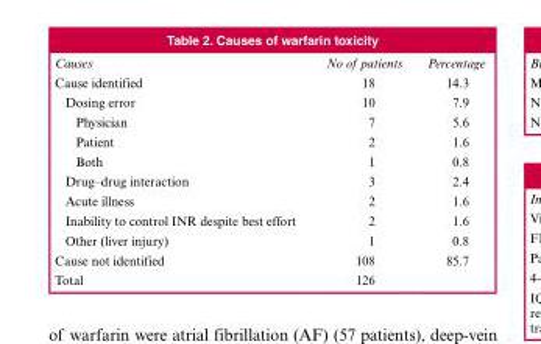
<table><thead><tr><td>Causes</td><td>No of patients</td><td>Percentage</td></tr></thead><tbody><tr><td>Cause identified</td><td>18</td><td>14.3</td></tr><tr><td>Dosing error</td><td>10</td><td>7.9</td></tr><tr><td>Physician</td><td>7</td><td>5.6</td></tr><tr><td>Patient</td><td>2</td><td>1.6</td></tr><tr><td>Both</td><td>1</td><td>0.8</td></tr><tr><td>Drug–drug interaction</td><td>3</td><td>2.4</td></tr><tr><td>Acute illness</td><td>2</td><td>1.6</td></tr><tr><td>Inability to control INR despite best effort</td><td>2</td><td>1.6</td></tr><tr><td>Other (liver injury)</td><td>1</td><td>0.8</td></tr><tr><td>Cause not identified</td><td>108</td><td>85.7</td></tr><tr><td>Total</td><td>126</td><td></td></tr></tbody></table>